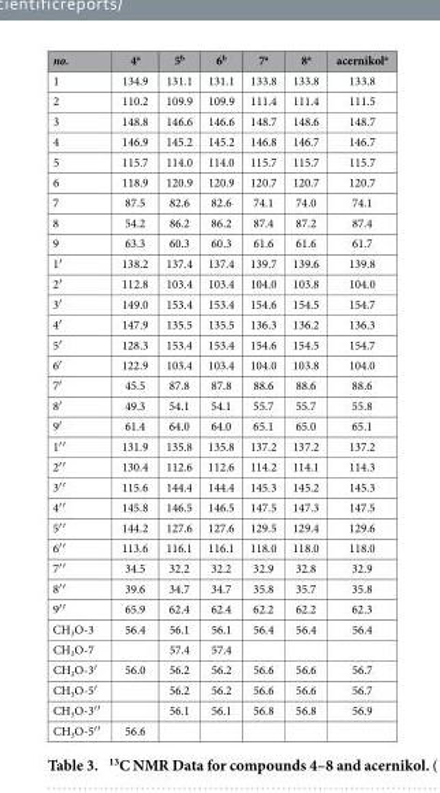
<table><thead><tr><td>no.</td><td>4<sup>a</sup></td><td>5<sup>b</sup></td><td>6<sup>b</sup></td><td>7<sup>a</sup></td><td>8<sup>a</sup></td><td>acernikol<sup>a</sup></td></tr></thead><tbody><tr><td>1</td><td>134.9</td><td>131.1</td><td>131.1</td><td>133.8</td><td>133.8</td><td>133.8</td></tr><tr><td>2</td><td>110.2</td><td>109.9</td><td>109.9</td><td>111.4</td><td>111.4</td><td>111.5</td></tr><tr><td>3</td><td>148.8</td><td>146.6</td><td>146.6</td><td>148.7</td><td>148.6</td><td>148.7</td></tr><tr><td>4</td><td>146.9</td><td>145.2</td><td>145.2</td><td>146.8</td><td>146.7</td><td>146.7</td></tr><tr><td>5</td><td>115.7</td><td>114.0</td><td>114.0</td><td>115.7</td><td>115.7</td><td>115.7</td></tr><tr><td>6</td><td>118.9</td><td>120.9</td><td>120.9</td><td>120.7</td><td>120.7</td><td>120.7</td></tr><tr><td>7</td><td>87.5</td><td>82.6</td><td>82.6</td><td>74.1</td><td>74.0</td><td>74.1</td></tr><tr><td>8</td><td>54.2</td><td>86.2</td><td>86.2</td><td>87.4</td><td>87.2</td><td>87.4</td></tr><tr><td>9</td><td>63.3</td><td>60.3</td><td>60.3</td><td>61.6</td><td>61.6</td><td>61.7</td></tr><tr><td>1′</td><td>138.2</td><td>137.4</td><td>137.4</td><td>139.7</td><td>139.6</td><td>139.8</td></tr><tr><td>2′</td><td>112.8</td><td>103.4</td><td>103.4</td><td>104.0</td><td>103.8</td><td>104.0</td></tr><tr><td>3′</td><td>149.0</td><td>153.4</td><td>153.4</td><td>154.6</td><td>154.5</td><td>154.7</td></tr><tr><td>4′</td><td>147.9</td><td>135.5</td><td>135.5</td><td>136.3</td><td>136.2</td><td>136.3</td></tr><tr><td>5′</td><td>128.3</td><td>153.4</td><td>153.4</td><td>154.6</td><td>154.5</td><td>154.7</td></tr><tr><td>6′</td><td>122.9</td><td>103.4</td><td>103.4</td><td>104.0</td><td>103.8</td><td>104.0</td></tr><tr><td>7′</td><td>45.5</td><td>87.8</td><td>87.8</td><td>88.6</td><td>88.6</td><td>88.6</td></tr><tr><td>8′</td><td>49.3</td><td>54.1</td><td>54.1</td><td>55.7</td><td>55.7</td><td>55.8</td></tr><tr><td>9′</td><td>61.4</td><td>64.0</td><td>64.0</td><td>65.1</td><td>65.0</td><td>65.1</td></tr><tr><td>1′ ′</td><td>131.9</td><td>135.8</td><td>135.8</td><td>137.2</td><td>137.2</td><td>137.2</td></tr><tr><td>2′ ′</td><td>130.4</td><td>112.6</td><td>112.6</td><td>114.2</td><td>114.1</td><td>114.3</td></tr><tr><td>3′ ′</td><td>115.6</td><td>144.4</td><td>144.4</td><td>145.3</td><td>145.2</td><td>145.3</td></tr><tr><td>4′ ′</td><td>145.8</td><td>146.5</td><td>146.5</td><td>147.5</td><td>147.3</td><td>147.5</td></tr><tr><td>5′ ′</td><td>144.2</td><td>127.6</td><td>127.6</td><td>129.5</td><td>129.4</td><td>129.6</td></tr><tr><td>6′ ′</td><td>113.6</td><td>116.1</td><td>116.1</td><td>118.0</td><td>118.0</td><td>118.0</td></tr><tr><td>7′ ′</td><td>34.5</td><td>32.2</td><td>32.2</td><td>32.9</td><td>32.8</td><td>32.9</td></tr><tr><td>8′ ′</td><td>39.6</td><td>34.7</td><td>34.7</td><td>35.8</td><td>35.7</td><td>35.8</td></tr><tr><td>9′ ′</td><td>65.9</td><td>62.4</td><td>62.4</td><td>62.2</td><td>62.2</td><td>62.3</td></tr><tr><td>CH<sub>3</sub>O-3</td><td>56.4</td><td>56.1</td><td>56.1</td><td>56.4</td><td>56.4</td><td>56.4</td></tr><tr><td>CH<sub>3</sub>O-7</td><td></td><td>57.4</td><td>57.4</td><td></td><td></td><td></td></tr><tr><td>CH<sub>3</sub>O-3′</td><td>56.0</td><td>56.2</td><td>56.2</td><td>56.6</td><td>56.6</td><td>56.7</td></tr><tr><td>CH<sub>3</sub>O-5′</td><td></td><td>56.2</td><td>56.2</td><td>56.6</td><td>56.6</td><td>56.7</td></tr><tr><td>CH<sub>3</sub>O-3′ ′</td><td></td><td>56.1</td><td>56.1</td><td>56.8</td><td>56.8</td><td>56.9</td></tr><tr><td>CH<sub>3</sub>O-5′ ′</td><td>56.6</td><td></td><td></td><td></td><td></td><td></td></tr></tbody></table>